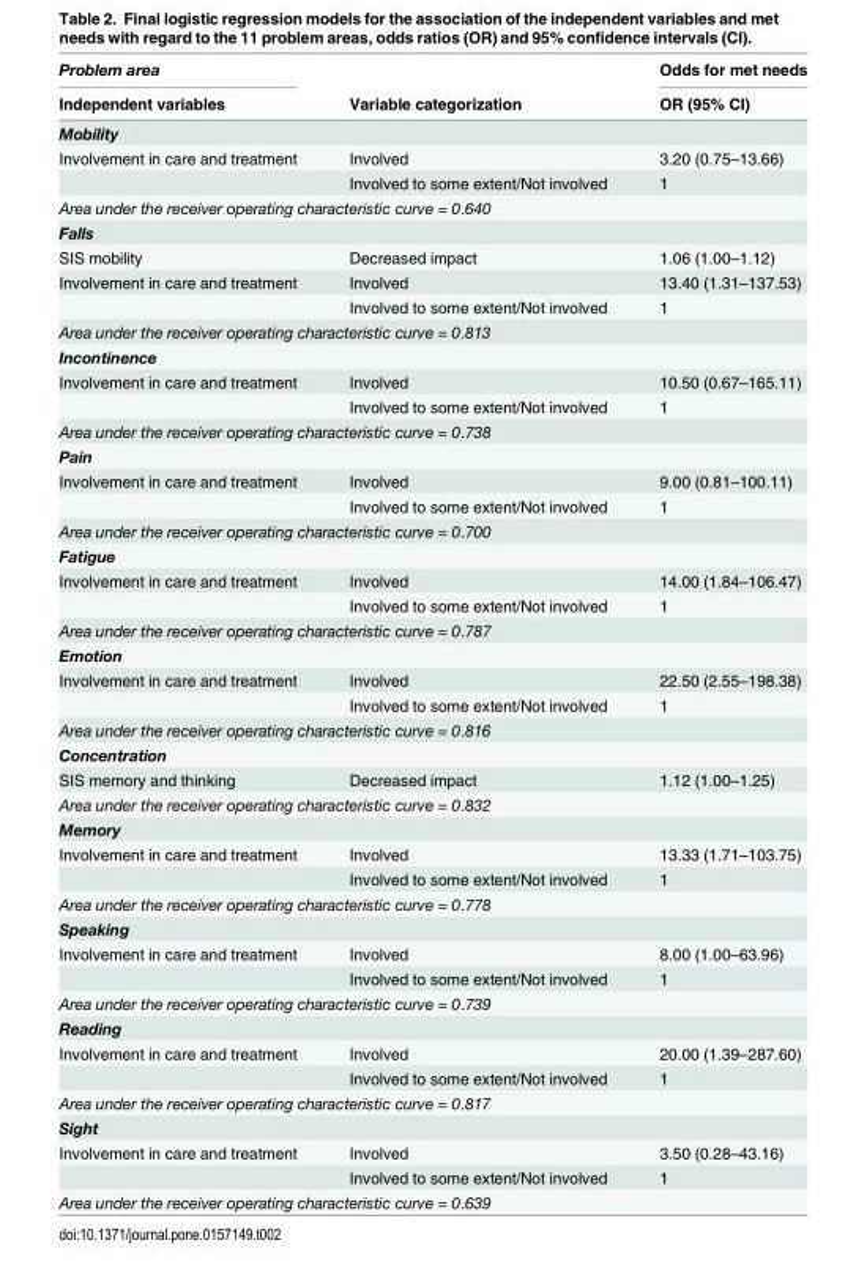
<table><thead><tr><td rowspan="2">Problem area Independent variables</td><td rowspan="2">Variable categorization</td><td rowspan="2">Odds for met needs OR (95% CI)</td></tr><tr></tr></thead><tbody><tr><td colspan="3">Mobility</td></tr><tr><td rowspan="2">Involvement in care and treatment</td><td>Involved</td><td>3.20 (0.75–13.66)</td></tr><tr><td>Involved to some extent/Not involved</td><td>1</td></tr><tr><td colspan="3">Area under the receiver operating characteristic curve = 0.640</td></tr><tr><td colspan="3">Falls</td></tr><tr><td>SIS mobility</td><td>Decreased impact</td><td>1.06 (1.00–1.12)</td></tr><tr><td rowspan="2">Involvement in care and treatment</td><td>Involved</td><td>13.40 (1.31–137.53)</td></tr><tr><td>Involved to some extent/Not involved</td><td>1</td></tr><tr><td colspan="3">Area under the receiver operating characteristic curve = 0.813</td></tr><tr><td colspan="3">Incontinence</td></tr><tr><td rowspan="2">Involvement in care and treatment</td><td>Involved</td><td>10.50 (0.67–165.11)</td></tr><tr><td>Involved to some extent/Not involved</td><td>1</td></tr><tr><td colspan="3">Area under the receiver operating characteristic curve = 0.738</td></tr><tr><td colspan="3">Pain</td></tr><tr><td rowspan="2">Involvement in care and treatment</td><td>Involved</td><td>9.00 (0.81–100.11)</td></tr><tr><td>Involved to some extent/Not involved</td><td>1</td></tr><tr><td colspan="3">Area under the receiver operating characteristic curve = 0.700</td></tr><tr><td colspan="3">Fatigue</td></tr><tr><td rowspan="2">Involvement in care and treatment</td><td>Involved</td><td>14.00 (1.84–106.47)</td></tr><tr><td>Involved to some extent/Not involved</td><td>1</td></tr><tr><td colspan="3">Area under the receiver operating characteristic curve = 0.787</td></tr><tr><td colspan="3">Emotion</td></tr><tr><td rowspan="2">Involvement in care and treatment</td><td>Involved</td><td>22.50 (2.55–198.38)</td></tr><tr><td>Involved to some extent/Not involved</td><td>1</td></tr><tr><td colspan="3">Area under the receiver operating characteristic curve = 0.816</td></tr><tr><td colspan="3">Concentration</td></tr><tr><td>SIS memory and thinking</td><td>Decreased impact</td><td>1.12 (1.00–1.25)</td></tr><tr><td colspan="3">Area under the receiver operating characteristic curve = 0.832</td></tr><tr><td colspan="3">Memory</td></tr><tr><td rowspan="2">Involvement in care and treatment</td><td>Involved</td><td>13.33 (1.71–103.75)</td></tr><tr><td>Involved to some extent/Not involved</td><td>1</td></tr><tr><td colspan="3">Area under the receiver operating characteristic curve = 0.778</td></tr><tr><td colspan="3">Speaking</td></tr><tr><td rowspan="2">Involvement in care and treatment</td><td>Involved</td><td>8.00 (1.00–63.96)</td></tr><tr><td>Involved to some extent/Not involved</td><td>1</td></tr><tr><td colspan="3">Area under the receiver operating characteristic curve = 0.739</td></tr><tr><td colspan="3">Reading</td></tr><tr><td rowspan="2">Involvement in care and treatment</td><td>Involved</td><td>20.00 (1.39–287.60)</td></tr><tr><td>Involved to some extent/Not involved</td><td>1</td></tr><tr><td colspan="3">Area under the receiver operating characteristic curve = 0.817</td></tr><tr><td colspan="3">Sight</td></tr><tr><td rowspan="2">Involvement in care and treatment</td><td>Involved</td><td>3.50 (0.28–43.16)</td></tr><tr><td>Involved to some extent/Not involved</td><td>1</td></tr><tr><td colspan="3">Area under the receiver operating characteristic curve = 0.639</td></tr></tbody></table>